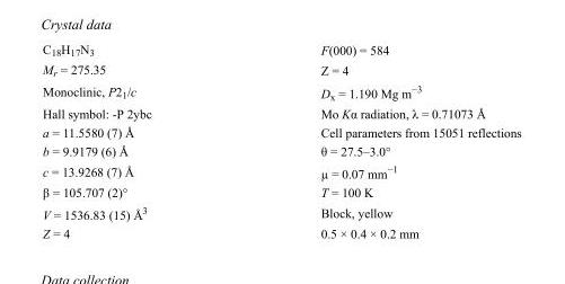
<table><tbody><tr><td>C<sub>18</sub>H<sub>17</sub>N<sub>3</sub></td><td>F(000) = 584</td></tr><tr><td>M<sub>r</sub> = 275.35</td><td>Z = 4</td></tr><tr><td>Monoclinic, P2<sub>1</sub>/c</td><td>D<sub>x</sub> = 1.190 Mg m<sup>−3</sup></td></tr><tr><td>Hall symbol: -P 2ybc</td><td>Mo Kα radiation, λ = 0.71073 Å</td></tr><tr><td>a = 11.5580 (7) Å</td><td>Cell parameters from 15051 reflections</td></tr><tr><td>b = 9.9179 (6) Å</td><td>θ = 27.5–3.0°</td></tr><tr><td>c = 13.9268 (7) Å</td><td>µ = 0.07 mm<sup>−1</sup></td></tr><tr><td>β = 105.707 (2)°</td><td>T = 100 K</td></tr><tr><td>V = 1536.83 (15) Å<sup>3</sup></td><td>Block, yellow</td></tr><tr><td>Z = 4</td><td>0.5 × 0.4 × 0.2 mm</td></tr></tbody></table>